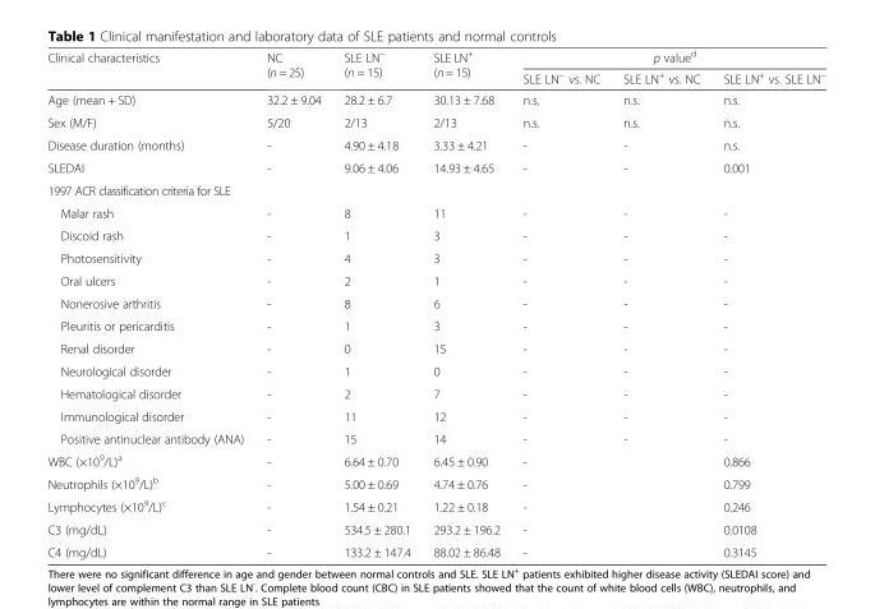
<table><thead><tr><td rowspan="2">Clinical characteristics</td><td rowspan="2">NC (n = 25)</td><td rowspan="2">SLE LN<sup>−</sup> (n = 15)</td><td rowspan="2">SLE LN<sup>+</sup> (n = 15)</td><td colspan="3">p value<sup>d</sup></td></tr><tr><td>SLE LN<sup>−</sup> vs. NC</td><td>SLE LN<sup>+</sup> vs. NC</td><td>SLE LN<sup>+</sup> vs. SLE LN<sup>−</sup></td></tr></thead><tbody><tr><td>Age (mean + SD)</td><td>32.2 ± 9.04</td><td>28.2 ± 6.7</td><td>30.13 ± 7.68</td><td>n.s.</td><td>n.s.</td><td>n.s.</td></tr><tr><td>Sex (M/F)</td><td>5/20</td><td>2/13</td><td>2/13</td><td>n.s.</td><td>n.s.</td><td>n.s.</td></tr><tr><td>Disease duration (months)</td><td>-</td><td>4.90 ± 4.18</td><td>3.33 ± 4.21</td><td>-</td><td>-</td><td>n.s.</td></tr><tr><td>SLEDAI</td><td>-</td><td>9.06 ± 4.06</td><td>14.93 ± 4.65</td><td>-</td><td>-</td><td>0.001</td></tr><tr><td colspan="7">1997 ACR classification criteria for SLE</td></tr><tr><td>Malar rash</td><td>-</td><td>8</td><td>11</td><td>-</td><td>-</td><td>-</td></tr><tr><td>Discoid rash</td><td>-</td><td>1</td><td>3</td><td>-</td><td>-</td><td>-</td></tr><tr><td>Photosensitivity</td><td>-</td><td>4</td><td>3</td><td>-</td><td>-</td><td>-</td></tr><tr><td>Oral ulcers</td><td>-</td><td>2</td><td>1</td><td>-</td><td>-</td><td>-</td></tr><tr><td>Nonerosive arthritis</td><td>-</td><td>8</td><td>6</td><td>-</td><td>-</td><td>-</td></tr><tr><td>Pleuritis or pericarditis</td><td>-</td><td>1</td><td>3</td><td>-</td><td>-</td><td>-</td></tr><tr><td>Renal disorder</td><td>-</td><td>0</td><td>15</td><td>-</td><td>-</td><td>-</td></tr><tr><td>Neurological disorder</td><td>-</td><td>1</td><td>0</td><td>-</td><td>-</td><td>-</td></tr><tr><td>Hematological disorder</td><td>-</td><td>2</td><td>7</td><td>-</td><td>-</td><td>-</td></tr><tr><td>Immunological disorder</td><td>-</td><td>11</td><td>12</td><td>-</td><td>-</td><td>-</td></tr><tr><td>Positive antinuclear antibody (ANA)</td><td>-</td><td>15</td><td>14</td><td>-</td><td>-</td><td>-</td></tr><tr><td>WBC (×10<sup>9</sup>/L)<sup>a</sup></td><td>-</td><td>6.64 ± 0.70</td><td>6.45 ± 0.90</td><td>-</td><td></td><td>0.866</td></tr><tr><td>Neutrophils (×10<sup>9</sup>/L)<sup>b</sup></td><td>-</td><td>5.00 ± 0.69</td><td>4.74 ± 0.76</td><td>-</td><td></td><td>0.799</td></tr><tr><td>Lymphocytes (×10<sup>9</sup>/L)<sup>c</sup></td><td>-</td><td>1.54 ± 0.21</td><td>1.22 ± 0.18</td><td>-</td><td></td><td>0.246</td></tr><tr><td>C3 (mg/dL)</td><td>-</td><td>534.5 ± 280.1</td><td>293.2 ± 196.2</td><td>-</td><td></td><td>0.0108</td></tr><tr><td>C4 (mg/dL)</td><td>-</td><td>133.2 ± 147.4</td><td>88.02 ± 86.48</td><td>-</td><td></td><td>0.3145</td></tr></tbody></table>